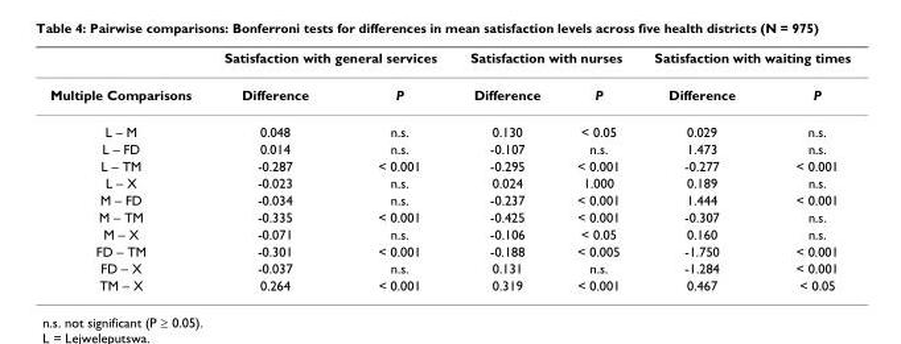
<table><thead><tr><td rowspan="2">Multiple Comparisons</td><td colspan="2">Satisfaction with general services</td><td colspan="2">Satisfaction with nurses</td><td colspan="2">Satisfaction with waiting times</td></tr><tr><td>Difference</td><td>P</td><td>Difference</td><td>P</td><td>Difference</td><td>P</td></tr></thead><tbody><tr><td>L – M</td><td>0.048</td><td>n.s.</td><td>0.130</td><td>&lt; 0.05</td><td>0.029</td><td>n.s.</td></tr><tr><td>L – FD</td><td>0.014</td><td>n.s.</td><td>-0.107</td><td>n.s.</td><td>1.473</td><td>n.s.</td></tr><tr><td>L – TM</td><td>-0.287</td><td>&lt; 0.001</td><td>-0.295</td><td>&lt; 0.001</td><td>-0.277</td><td>&lt; 0.001</td></tr><tr><td>L – X</td><td>-0.023</td><td>n.s.</td><td>0.024</td><td>1.000</td><td>0.189</td><td>n.s.</td></tr><tr><td>M – FD</td><td>-0.034</td><td>n.s.</td><td>-0.237</td><td>&lt; 0.001</td><td>1.444</td><td>&lt; 0.001</td></tr><tr><td>M – TM</td><td>-0.335</td><td>&lt; 0.001</td><td>-0.425</td><td>&lt; 0.001</td><td>-0.307</td><td>n.s.</td></tr><tr><td>M – X</td><td>-0.071</td><td>n.s.</td><td>-0.106</td><td>&lt; 0.05</td><td>0.160</td><td>n.s.</td></tr><tr><td>FD – TM</td><td>-0.301</td><td>&lt; 0.001</td><td>-0.188</td><td>&lt; 0.005</td><td>-1.750</td><td>&lt; 0.001</td></tr><tr><td>FD – X</td><td>-0.037</td><td>n.s.</td><td>0.131</td><td>n.s.</td><td>-1.284</td><td>&lt; 0.001</td></tr><tr><td>TM – X</td><td>0.264</td><td>&lt; 0.001</td><td>0.319</td><td>&lt; 0.001</td><td>0.467</td><td>&lt; 0.05</td></tr></tbody></table>